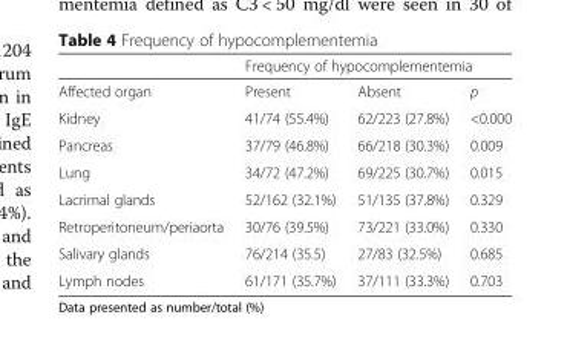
<table><thead><tr><td rowspan="2">Affected organ</td><td colspan="3">Frequency of hypocomplementemia</td></tr><tr><td>Present</td><td>Absent</td><td>p</td></tr></thead><tbody><tr><td>Kidney</td><td>41/74 (55.4%)</td><td>62/223 (27.8%)</td><td>&lt;0.000</td></tr><tr><td>Pancreas</td><td>37/79 (46.8%)</td><td>66/218 (30.3%)</td><td>0.009</td></tr><tr><td>Lung</td><td>34/72 (47.2%)</td><td>69/225 (30.7%)</td><td>0.015</td></tr><tr><td>Lacrimal glands</td><td>52/162 (32.1%)</td><td>51/135 (37.8%)</td><td>0.329</td></tr><tr><td>Retroperitoneum/periaorta</td><td>30/76 (39.5%)</td><td>73/221 (33.0%)</td><td>0.330</td></tr><tr><td>Salivary glands</td><td>76/214 (35.5)</td><td>27/83 (32.5%)</td><td>0.685</td></tr><tr><td>Lymph nodes</td><td>61/171 (35.7%)</td><td>37/111 (33.3%)</td><td>0.703</td></tr></tbody></table>